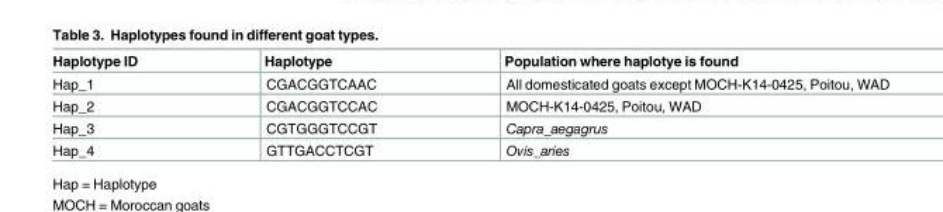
<table><thead><tr><td>Haplotype ID</td><td>Haplotype</td><td>Population where haplotye is found</td></tr></thead><tbody><tr><td>Hap_1</td><td>CGACGGTCAAC</td><td>All domesticated goats except MOCH-K14-0425, Poitou, WAD</td></tr><tr><td>Hap_2</td><td>CGACGGTCCAC</td><td>MOCH-K14-0425, Poitou, WAD</td></tr><tr><td>Hap_3</td><td>CGTGGGTCCGT</td><td>Capra_aegagrus</td></tr><tr><td>Hap_4</td><td>GTTGACCTCGT</td><td>Ovis_aries</td></tr></tbody></table>